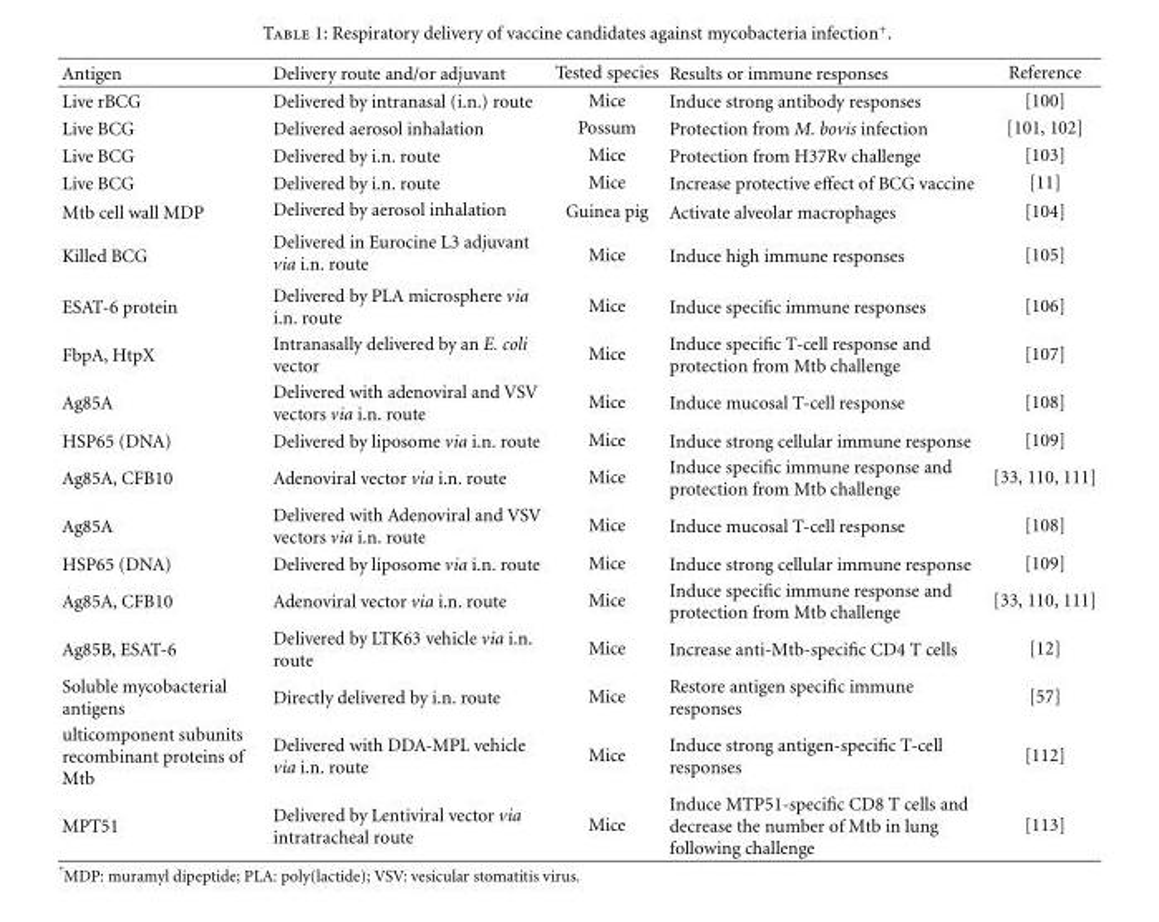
<table><thead><tr><td>Antigen</td><td>Delivery route and/or adjuvant</td><td>Tested species</td><td>Results or immune responses</td><td>Reference</td></tr></thead><tbody><tr><td>Live rBCG</td><td>Delivered by intranasal (i.n.) route</td><td>Mice</td><td>Induce strong antibody responses</td><td>[100]</td></tr><tr><td>Live BCG</td><td>Delivered aerosol inhalation</td><td>Possum</td><td>Protection from M. bovis infection</td><td>[101, 102]</td></tr><tr><td>Live BCG</td><td>Delivered by i.n. route</td><td>Mice</td><td>Protection from H37Rv challenge</td><td>[103]</td></tr><tr><td>Live BCG</td><td>Delivered by i.n. route</td><td>Mice</td><td>Increase protective effect of BCG vaccine</td><td>[11]</td></tr><tr><td>Mtb cell wall MDP</td><td>Delivered by aerosol inhalation</td><td>Guinea pig</td><td>Activate alveolar macrophages</td><td>[104]</td></tr><tr><td>Killed BCG</td><td>Delivered in Eurocine L3 adjuvant via i.n. route</td><td>Mice</td><td>Induce high immune responses</td><td>[105]</td></tr><tr><td>ESAT-6 protein</td><td>Delivered by PLA microsphere via i.n. route</td><td>Mice</td><td>Induce specific immune responses</td><td>[106]</td></tr><tr><td>FbpA, HtpX</td><td>Intranasally delivered by an E. coli vector</td><td>Mice</td><td>Induce specific T-cell response and protection from Mtb challenge</td><td>[107]</td></tr><tr><td>Ag85A</td><td>Delivered with adenoviral and VSV vectors via i.n. route</td><td>Mice</td><td>Induce mucosal T-cell response</td><td>[108]</td></tr><tr><td>HSP65 (DNA)</td><td>Delivered by liposome via i.n. route</td><td>Mice</td><td>Induce strong cellular immune response</td><td>[109]</td></tr><tr><td>Ag85A, CFB10</td><td>Adenoviral vector via i.n. route</td><td>Mice</td><td>Induce specific immune response and protection from Mtb challenge</td><td>[33, 110, 111]</td></tr><tr><td>Ag85A</td><td>Delivered with Adenoviral and VSV vectors via i.n. route</td><td>Mice</td><td>Induce mucosal T-cell response</td><td>[108]</td></tr><tr><td>HSP65 (DNA)</td><td>Delivered by liposome via i.n. route</td><td>Mice</td><td>Induce strong cellular immune response</td><td>[109]</td></tr><tr><td>Ag85A, CFB10</td><td>Adenoviral vector via i.n. route</td><td>Mice</td><td>Induce specific immune response and protection from Mtb challenge</td><td>[33, 110, 111]</td></tr><tr><td>Ag85B, ESAT-6</td><td>Delivered by LTK63 vehicle via i.n. route</td><td>Mice</td><td>Increase anti-Mtb-specific CD4 T cells</td><td>[12]</td></tr><tr><td>Soluble mycobacterial antigens</td><td>Directly delivered by i.n. route</td><td>Mice</td><td>Restore antigen specific immune responses</td><td>[57]</td></tr><tr><td>ulticomponent subunits recombinant proteins of Mtb</td><td>Delivered with DDA-MPL vehicle via i.n. route</td><td>Mice</td><td>Induce strong antigen-specific T-cell responses</td><td>[112]</td></tr><tr><td>MPT51</td><td>Delivered by Lentiviral vector via intratracheal route</td><td>Mice</td><td>Induce MTP51-specific CD8 T cells and decrease the number of Mtb in lung following challenge</td><td>[113]</td></tr></tbody></table>